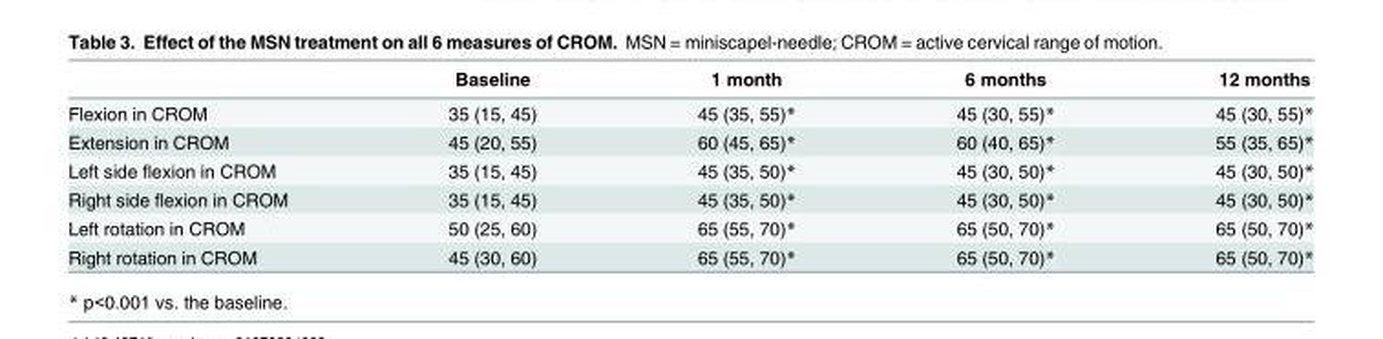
<table><thead><tr><td></td><td>Baseline</td><td>1 month</td><td>6 months</td><td>12 months</td></tr></thead><tbody><tr><td>Flexion in CROM</td><td>35 (15, 45)</td><td>45 (35, 55)*</td><td>45 (30, 55)*</td><td>45 (30, 55)*</td></tr><tr><td>Extension in CROM</td><td>45 (20, 55)</td><td>60 (45, 65)*</td><td>60 (40, 65)*</td><td>55 (35, 65)*</td></tr><tr><td>Left side flexion in CROM</td><td>35 (15, 45)</td><td>45 (35, 50)*</td><td>45 (30, 50)*</td><td>45 (30, 50)*</td></tr><tr><td>Right side flexion in CROM</td><td>35 (15, 45)</td><td>45 (35, 50)*</td><td>45 (30, 50)*</td><td>45 (30, 50)*</td></tr><tr><td>Left rotation in CROM</td><td>50 (25, 60)</td><td>65 (55, 70)*</td><td>65 (50, 70)*</td><td>65 (50, 70)*</td></tr><tr><td>Right rotation in CROM</td><td>45 (30, 60)</td><td>65 (55, 70)*</td><td>65 (50, 70)*</td><td>65 (50, 70)*</td></tr></tbody></table>